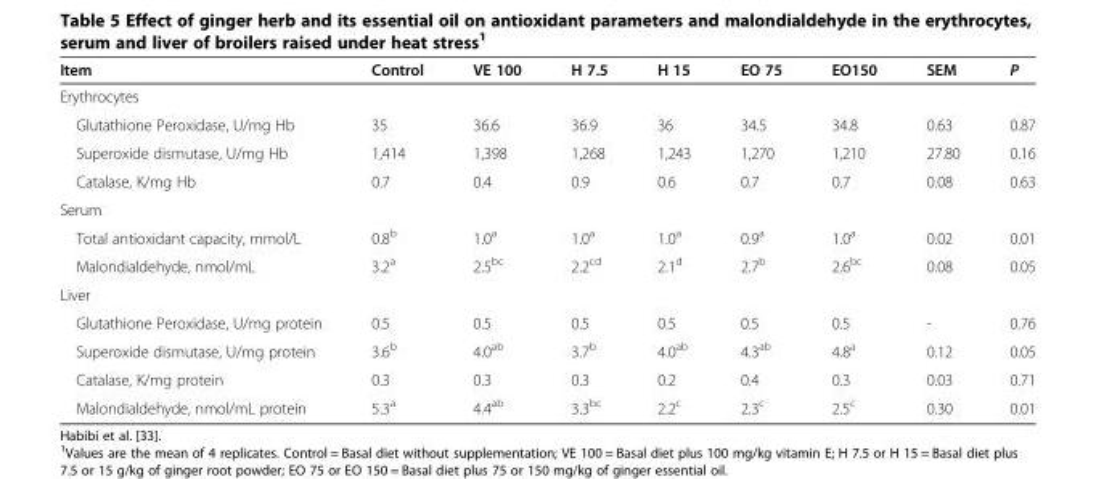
<table><thead><tr><td>Item</td><td>Control</td><td>VE 100</td><td>H 7.5</td><td>H 15</td><td>EO 75</td><td>EO150</td><td>SEM</td><td>P</td></tr></thead><tbody><tr><td colspan="9">Erythrocytes</td></tr><tr><td>Glutathione Peroxidase, U/mg Hb</td><td>35</td><td>36.6</td><td>36.9</td><td>36</td><td>34.5</td><td>34.8</td><td>0.63</td><td>0.87</td></tr><tr><td>Superoxide dismutase, U/mg Hb</td><td>1,414</td><td>1,398</td><td>1,268</td><td>1,243</td><td>1,270</td><td>1,210</td><td>27.80</td><td>0.16</td></tr><tr><td>Catalase, K/mg Hb</td><td>0.7</td><td>0.4</td><td>0.9</td><td>0.6</td><td>0.7</td><td>0.7</td><td>0.08</td><td>0.63</td></tr><tr><td colspan="9">Serum</td></tr><tr><td>Total antioxidant capacity, mmol/L</td><td>0.8<sup>b</sup></td><td>1.0<sup>a</sup></td><td>1.0<sup>a</sup></td><td>1.0<sup>a</sup></td><td>0.9<sup>a</sup></td><td>1.0<sup>a</sup></td><td>0.02</td><td>0.01</td></tr><tr><td>Malondialdehyde, nmol/mL</td><td>3.2<sup>a</sup></td><td>2.5<sup>bc</sup></td><td>2.2<sup>cd</sup></td><td>2.1<sup>d</sup></td><td>2.7<sup>b</sup></td><td>2.6<sup>bc</sup></td><td>0.08</td><td>0.05</td></tr><tr><td colspan="9">Liver</td></tr><tr><td>Glutathione Peroxidase, U/mg protein</td><td>0.5</td><td>0.5</td><td>0.5</td><td>0.5</td><td>0.5</td><td>0.5</td><td>-</td><td>0.76</td></tr><tr><td>Superoxide dismutase, U/mg protein</td><td>3.6<sup>b</sup></td><td>4.0<sup>ab</sup></td><td>3.7<sup>b</sup></td><td>4.0<sup>ab</sup></td><td>4.3<sup>ab</sup></td><td>4.8<sup>a</sup></td><td>0.12</td><td>0.05</td></tr><tr><td>Catalase, K/mg protein</td><td>0.3</td><td>0.3</td><td>0.3</td><td>0.2</td><td>0.4</td><td>0.3</td><td>0.03</td><td>0.71</td></tr><tr><td>Malondialdehyde, nmol/mL protein</td><td>5.3<sup>a</sup></td><td>4.4<sup>ab</sup></td><td>3.3<sup>bc</sup></td><td>2.2<sup>c</sup></td><td>2.3<sup>c</sup></td><td>2.5<sup>c</sup></td><td>0.30</td><td>0.01</td></tr></tbody></table>